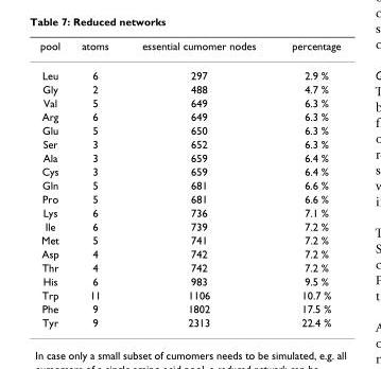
<table><thead><tr><td>pool</td><td>atoms</td><td>essential cumomer nodes</td><td>percentage</td></tr></thead><tbody><tr><td>Leu</td><td>6</td><td>297</td><td>2.9 %</td></tr><tr><td>Gly</td><td>2</td><td>488</td><td>4.7 %</td></tr><tr><td>Val</td><td>5</td><td>649</td><td>6.3 %</td></tr><tr><td>Arg</td><td>6</td><td>649</td><td>6.3 %</td></tr><tr><td>Glu</td><td>5</td><td>650</td><td>6.3 %</td></tr><tr><td>Ser</td><td>3</td><td>652</td><td>6.3 %</td></tr><tr><td>Ala</td><td>3</td><td>659</td><td>6.4 %</td></tr><tr><td>Cys</td><td>3</td><td>659</td><td>6.4 %</td></tr><tr><td>Gln</td><td>5</td><td>681</td><td>6.6 %</td></tr><tr><td>Pro</td><td>5</td><td>681</td><td>6.6 %</td></tr><tr><td>Lys</td><td>6</td><td>736</td><td>7.1 %</td></tr><tr><td>Ile</td><td>6</td><td>739</td><td>7.2 %</td></tr><tr><td>Met</td><td>5</td><td>741</td><td>7.2 %</td></tr><tr><td>Asp</td><td>4</td><td>742</td><td>7.2 %</td></tr><tr><td>Thr</td><td>4</td><td>742</td><td>7.2 %</td></tr><tr><td>His</td><td>6</td><td>983</td><td>9.5 %</td></tr><tr><td>Trp</td><td>11</td><td>1106</td><td>10.7 %</td></tr><tr><td>Phe</td><td>9</td><td>1802</td><td>17.5 %</td></tr><tr><td>Tyr</td><td>9</td><td>2313</td><td>22.4 %</td></tr></tbody></table>